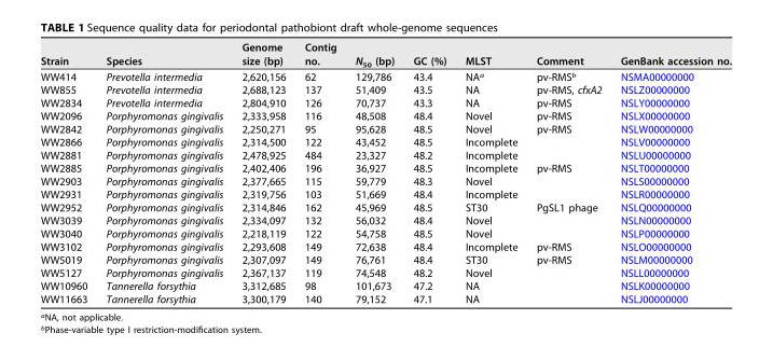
<table><thead><tr><td>Strain</td><td>Species</td><td>Genome size (bp)</td><td>Contig no.</td><td>N<sub>50</sub> (bp)</td><td>GC (%)</td><td>MLST</td><td>Comment</td><td>GenBank accession no.</td></tr></thead><tbody><tr><td>WW414</td><td>Prevotella intermedia</td><td>2,620,156</td><td>62</td><td>129,786</td><td>43.4</td><td>NA<sup>a</sup></td><td>pv-RMS<sup>b</sup></td><td>NSMA00000000</td></tr><tr><td>WW855</td><td>Prevotella intermedia</td><td>2,688,123</td><td>137</td><td>51,409</td><td>43.5</td><td>NA</td><td>pv-RMS, cfxA2</td><td>NSLZ00000000</td></tr><tr><td>WW2834</td><td>Prevotella intermedia</td><td>2,804,910</td><td>126</td><td>70,737</td><td>43.3</td><td>NA</td><td>pv-RMS</td><td>NSLY00000000</td></tr><tr><td>WW2096</td><td>Porphyromonas gingivalis</td><td>2,333,958</td><td>116</td><td>48,508</td><td>48.4</td><td>Novel</td><td>pv-RMS</td><td>NSLX00000000</td></tr><tr><td>WW2842</td><td>Porphyromonas gingivalis</td><td>2,250,271</td><td>95</td><td>95,628</td><td>48.5</td><td>Novel</td><td>pv-RMS</td><td>NSLW00000000</td></tr><tr><td>WW2866</td><td>Porphyromonas gingivalis</td><td>2,314,500</td><td>122</td><td>43,452</td><td>48.5</td><td>Incomplete</td><td></td><td>NSLV00000000</td></tr><tr><td>WW2881</td><td>Porphyromonas gingivalis</td><td>2,478,925</td><td>484</td><td>23,327</td><td>48.2</td><td>Incomplete</td><td></td><td>NSLU00000000</td></tr><tr><td>WW2885</td><td>Porphyromonas gingivalis</td><td>2,402,406</td><td>196</td><td>36,927</td><td>48.5</td><td>Incomplete</td><td>pv-RMS</td><td>NSLT00000000</td></tr><tr><td>WW2903</td><td>Porphyromonas gingivalis</td><td>2,377,665</td><td>115</td><td>59,779</td><td>48.3</td><td>Novel</td><td></td><td>NSLS00000000</td></tr><tr><td>WW2931</td><td>Porphyromonas gingivalis</td><td>2,319,756</td><td>103</td><td>51,669</td><td>48.4</td><td>Incomplete</td><td></td><td>NSLR00000000</td></tr><tr><td>WW2952</td><td>Porphyromonas gingivalis</td><td>2,314,846</td><td>162</td><td>45,969</td><td>48.5</td><td>ST30</td><td>PgSL1 phage</td><td>NSLQ00000000</td></tr><tr><td>WW3039</td><td>Porphyromonas gingivalis</td><td>2,334,097</td><td>132</td><td>56,032</td><td>48.4</td><td>Novel</td><td></td><td>NSLN00000000</td></tr><tr><td>WW3040</td><td>Porphyromonas gingivalis</td><td>2,218,119</td><td>122</td><td>54,758</td><td>48.5</td><td>Novel</td><td></td><td>NSLP00000000</td></tr><tr><td>WW3102</td><td>Porphyromonas gingivalis</td><td>2,293,608</td><td>149</td><td>72,638</td><td>48.4</td><td>Incomplete</td><td>pv-RMS</td><td>NSLO00000000</td></tr><tr><td>WW5019</td><td>Porphyromonas gingivalis</td><td>2,307,097</td><td>149</td><td>76,761</td><td>48.4</td><td>ST30</td><td>pv-RMS</td><td>NSLM00000000</td></tr><tr><td>WW5127</td><td>Porphyromonas gingivalis</td><td>2,367,137</td><td>119</td><td>74,548</td><td>48.2</td><td>Novel</td><td></td><td>NSLL00000000</td></tr><tr><td>WW10960</td><td>Tannerella forsythia</td><td>3,312,685</td><td>98</td><td>101,673</td><td>47.2</td><td>NA</td><td></td><td>NSLK00000000</td></tr><tr><td>WW11663</td><td>Tannerella forsythia</td><td>3,300,179</td><td>140</td><td>79,152</td><td>47.1</td><td>NA</td><td></td><td>NSLJ00000000</td></tr></tbody></table>